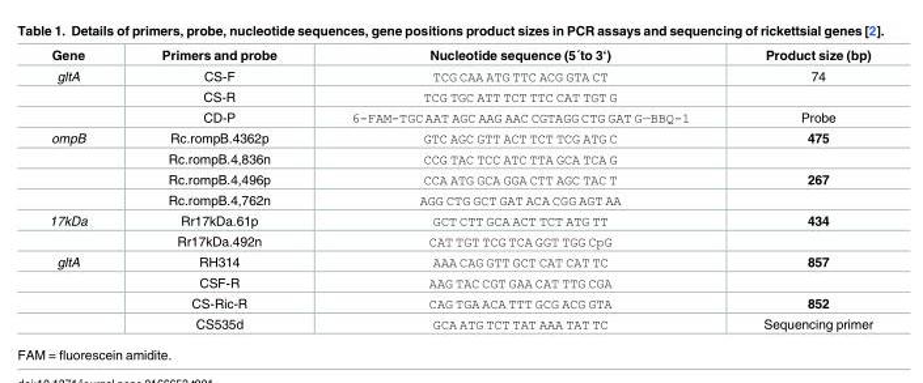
<table><thead><tr><td>Gene</td><td>Primers and probe</td><td>Nucleotide sequence (5´to 3‘)</td><td>Product size (bp)</td></tr></thead><tbody><tr><td rowspan="3">gltA</td><td>CS-F</td><td>TCG CAA ATG TTC ACG GTA CT</td><td>74</td></tr><tr><td>CS-R</td><td>TCG TGC ATT TCT TTC CAT TGT G</td><td></td></tr><tr><td>CD-P</td><td>6-FAM-TGC AAT AGC AAG AAC CGTAGG CTG GAT G—BBQ-1</td><td>Probe</td></tr><tr><td rowspan="4">ompB</td><td>Rc.rompB.4362p</td><td>GTC AGC GTT ACT TCT TCG ATG C</td><td>475</td></tr><tr><td>Rc.rompB.4,836n</td><td>CCG TAC TCC ATC TTA GCA TCA G</td><td></td></tr><tr><td>Rc.rompB.4,496p</td><td>CCA ATG GCA GGA CTT AGC TAC T</td><td>267</td></tr><tr><td>Rc.rompB.4,762n</td><td>AGG CTG GCT GAT ACA CGG AGT AA</td><td></td></tr><tr><td rowspan="2">17kDa</td><td>Rr17kDa.61p</td><td>GCT CTT GCA ACT TCT ATG TT</td><td>434</td></tr><tr><td>Rr17kDa.492n</td><td>CAT TGT TCG TCA GGT TGG CpG</td><td></td></tr><tr><td rowspan="4">gltA</td><td>RH314</td><td>AAA CAG GTT GCT CAT CAT TC</td><td>857</td></tr><tr><td>CSF-R</td><td>AAG TAC CGT GAA CAT TTG CGA</td><td></td></tr><tr><td>CS-Ric-R</td><td>CAG TGA ACA TTT GCG ACG GTA</td><td>852</td></tr><tr><td>CS535d</td><td>GCA ATG TCT TAT AAA TAT TC</td><td>Sequencing primer</td></tr></tbody></table>